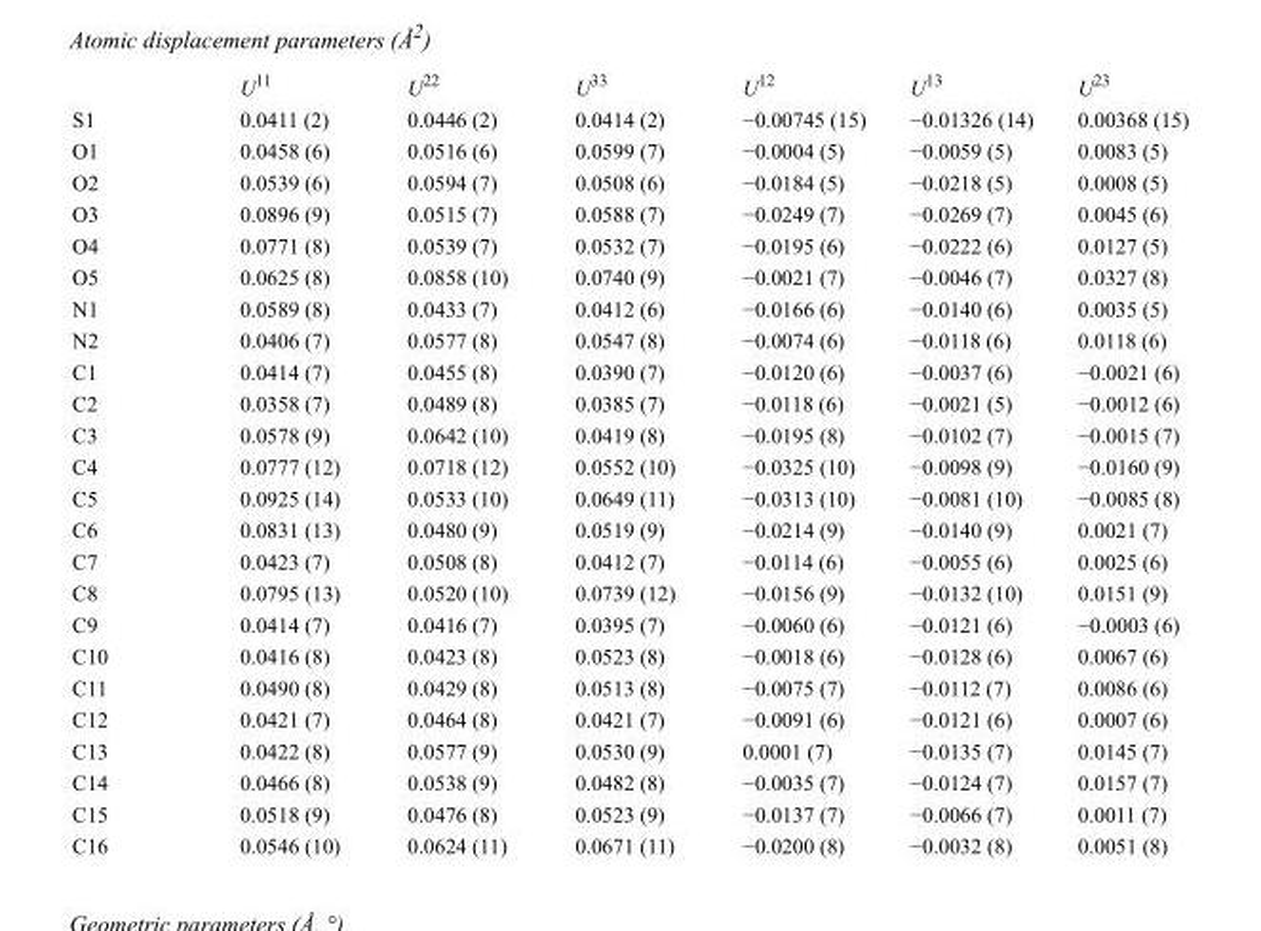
<table><thead><tr><td></td><td>U<sup>11</sup></td><td>U<sup>22</sup></td><td>U<sup>33</sup></td><td>U<sup>12</sup></td><td>U<sup>13</sup></td><td>U<sup>23</sup></td></tr></thead><tbody><tr><td>S1</td><td>0.0411 (2)</td><td>0.0446 (2)</td><td>0.0414 (2)</td><td>−0.00745 (15)</td><td>−0.01326 (14)</td><td>0.00368 (15)</td></tr><tr><td>O1</td><td>0.0458 (6)</td><td>0.0516 (6)</td><td>0.0599 (7)</td><td>−0.0004 (5)</td><td>−0.0059 (5)</td><td>0.0083 (5)</td></tr><tr><td>O2</td><td>0.0539 (6)</td><td>0.0594 (7)</td><td>0.0508 (6)</td><td>−0.0184 (5)</td><td>−0.0218 (5)</td><td>0.0008 (5)</td></tr><tr><td>O3</td><td>0.0896 (9)</td><td>0.0515 (7)</td><td>0.0588 (7)</td><td>−0.0249 (7)</td><td>−0.0269 (7)</td><td>0.0045 (6)</td></tr><tr><td>O4</td><td>0.0771 (8)</td><td>0.0539 (7)</td><td>0.0532 (7)</td><td>−0.0195 (6)</td><td>−0.0222 (6)</td><td>0.0127 (5)</td></tr><tr><td>O5</td><td>0.0625 (8)</td><td>0.0858 (10)</td><td>0.0740 (9)</td><td>−0.0021 (7)</td><td>−0.0046 (7)</td><td>0.0327 (8)</td></tr><tr><td>N1</td><td>0.0589 (8)</td><td>0.0433 (7)</td><td>0.0412 (6)</td><td>−0.0166 (6)</td><td>−0.0140 (6)</td><td>0.0035 (5)</td></tr><tr><td>N2</td><td>0.0406 (7)</td><td>0.0577 (8)</td><td>0.0547 (8)</td><td>−0.0074 (6)</td><td>−0.0118 (6)</td><td>0.0118 (6)</td></tr><tr><td>C1</td><td>0.0414 (7)</td><td>0.0455 (8)</td><td>0.0390 (7)</td><td>−0.0120 (6)</td><td>−0.0037 (6)</td><td>−0.0021 (6)</td></tr><tr><td>C2</td><td>0.0358 (7)</td><td>0.0489 (8)</td><td>0.0385 (7)</td><td>−0.0118 (6)</td><td>−0.0021 (5)</td><td>−0.0012 (6)</td></tr><tr><td>C3</td><td>0.0578 (9)</td><td>0.0642 (10)</td><td>0.0419 (8)</td><td>−0.0195 (8)</td><td>−0.0102 (7)</td><td>−0.0015 (7)</td></tr><tr><td>C4</td><td>0.0777 (12)</td><td>0.0718 (12)</td><td>0.0552 (10)</td><td>−0.0325 (10)</td><td>−0.0098 (9)</td><td>−0.0160 (9)</td></tr><tr><td>C5</td><td>0.0925 (14)</td><td>0.0533 (10)</td><td>0.0649 (11)</td><td>−0.0313 (10)</td><td>−0.0081 (10)</td><td>−0.0085 (8)</td></tr><tr><td>C6</td><td>0.0831 (13)</td><td>0.0480 (9)</td><td>0.0519 (9)</td><td>−0.0214 (9)</td><td>−0.0140 (9)</td><td>0.0021 (7)</td></tr><tr><td>C7</td><td>0.0423 (7)</td><td>0.0508 (8)</td><td>0.0412 (7)</td><td>−0.0114 (6)</td><td>−0.0055 (6)</td><td>0.0025 (6)</td></tr><tr><td>C8</td><td>0.0795 (13)</td><td>0.0520 (10)</td><td>0.0739 (12)</td><td>−0.0156 (9)</td><td>−0.0132 (10)</td><td>0.0151 (9)</td></tr><tr><td>C9</td><td>0.0414 (7)</td><td>0.0416 (7)</td><td>0.0395 (7)</td><td>−0.0060 (6)</td><td>−0.0121 (6)</td><td>−0.0003 (6)</td></tr><tr><td>C10</td><td>0.0416 (8)</td><td>0.0423 (8)</td><td>0.0523 (8)</td><td>−0.0018 (6)</td><td>−0.0128 (6)</td><td>0.0067 (6)</td></tr><tr><td>C11</td><td>0.0490 (8)</td><td>0.0429 (8)</td><td>0.0513 (8)</td><td>−0.0075 (7)</td><td>−0.0112 (7)</td><td>0.0086 (6)</td></tr><tr><td>C12</td><td>0.0421 (7)</td><td>0.0464 (8)</td><td>0.0421 (7)</td><td>−0.0091 (6)</td><td>−0.0121 (6)</td><td>0.0007 (6)</td></tr><tr><td>C13</td><td>0.0422 (8)</td><td>0.0577 (9)</td><td>0.0530 (9)</td><td>0.0001 (7)</td><td>−0.0135 (7)</td><td>0.0145 (7)</td></tr><tr><td>C14</td><td>0.0466 (8)</td><td>0.0538 (9)</td><td>0.0482 (8)</td><td>−0.0035 (7)</td><td>−0.0124 (7)</td><td>0.0157 (7)</td></tr><tr><td>C15</td><td>0.0518 (9)</td><td>0.0476 (8)</td><td>0.0523 (9)</td><td>−0.0137 (7)</td><td>−0.0066 (7)</td><td>0.0011 (7)</td></tr><tr><td>C16</td><td>0.0546 (10)</td><td>0.0624 (11)</td><td>0.0671 (11)</td><td>−0.0200 (8)</td><td>−0.0032 (8)</td><td>0.0051 (8)</td></tr></tbody></table>